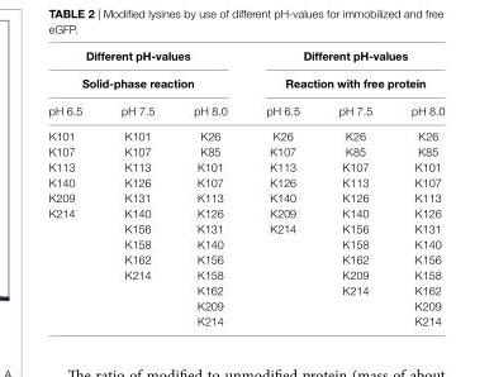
<table><tbody><tr><td colspan="3">Different ph-values</td><td colspan="3">Different ph-values</td></tr><tr><td colspan="3">solid-phase reaction</td><td colspan="3">reaction with free protein</td></tr><tr><td>pH 6.5</td><td>pH 7.5</td><td>pH 8.0</td><td>pH 6.5</td><td>pH 7.5</td><td>pH 8.0</td></tr><tr><td>K101</td><td>K101</td><td>K26</td><td>K26</td><td>K26</td><td>K26</td></tr><tr><td>K107</td><td>K107</td><td>K85</td><td>K107</td><td>K85</td><td>K85</td></tr><tr><td>K113</td><td>K113</td><td>K101</td><td>K113</td><td>K107</td><td>K101</td></tr><tr><td>K140</td><td>K126</td><td>K107</td><td>K126</td><td>K113</td><td>K107</td></tr><tr><td>K209</td><td>K131</td><td>K113</td><td>K140</td><td>K126</td><td>K113</td></tr><tr><td rowspan="8">K214</td><td>K140</td><td>K126</td><td>K209</td><td>K140</td><td>K126</td></tr><tr><td>K156</td><td>K131</td><td>K214</td><td>K156</td><td>K131</td></tr><tr><td>K158</td><td>K140</td><td></td><td>K158</td><td>K140</td></tr><tr><td>K162</td><td>K156</td><td></td><td>K162</td><td>K156</td></tr><tr><td>K214</td><td>K158</td><td></td><td>K209</td><td>K158</td></tr><tr><td></td><td>K162</td><td></td><td>K214</td><td>K162</td></tr><tr><td></td><td>K209</td><td></td><td></td><td>K209</td></tr><tr><td></td><td>K214</td><td></td><td></td><td>K214</td></tr></tbody></table>